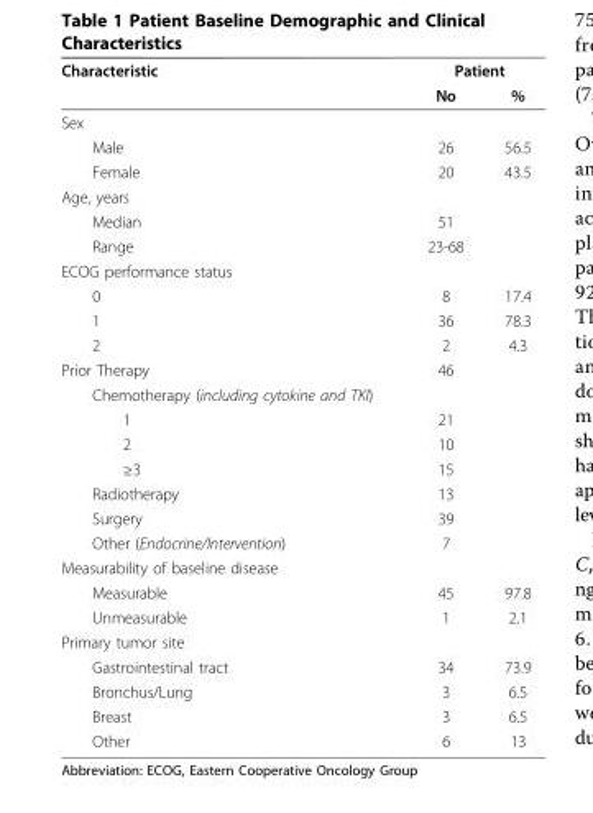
<table><thead><tr><td rowspan="2">Characteristic</td><td colspan="2">Patient</td></tr><tr><td>No</td><td>%</td></tr></thead><tbody><tr><td colspan="3">Sex</td></tr><tr><td>Male</td><td>26</td><td>56.5</td></tr><tr><td>Female</td><td>20</td><td>43.5</td></tr><tr><td colspan="3">Age, years</td></tr><tr><td>Median</td><td>51</td><td></td></tr><tr><td>Range</td><td>23-68</td><td></td></tr><tr><td colspan="3">ECOG performance status</td></tr><tr><td>0</td><td>8</td><td>17.4</td></tr><tr><td>1</td><td>36</td><td>78.3</td></tr><tr><td>2</td><td>2</td><td>4.3</td></tr><tr><td>Prior Therapy</td><td>46</td><td></td></tr><tr><td colspan="3">Chemotherapy (including cytokine and TKI)</td></tr><tr><td>1</td><td>21</td><td></td></tr><tr><td>2</td><td>10</td><td></td></tr><tr><td>≥3</td><td>15</td><td></td></tr><tr><td>Radiotherapy</td><td>13</td><td></td></tr><tr><td>Surgery</td><td>39</td><td></td></tr><tr><td>Other (Endocrine/Intervention)</td><td>7</td><td></td></tr><tr><td colspan="3">Measurability of baseline disease</td></tr><tr><td>Measurable</td><td>45</td><td>97.8</td></tr><tr><td>Unmeasurable</td><td>1</td><td>2.1</td></tr><tr><td colspan="3">Primary tumor site</td></tr><tr><td>Gastrointestinal tract</td><td>34</td><td>73.9</td></tr><tr><td>Bronchus/Lung</td><td>3</td><td>6.5</td></tr><tr><td>Breast</td><td>3</td><td>6.5</td></tr><tr><td>Other</td><td>6</td><td>13</td></tr></tbody></table>